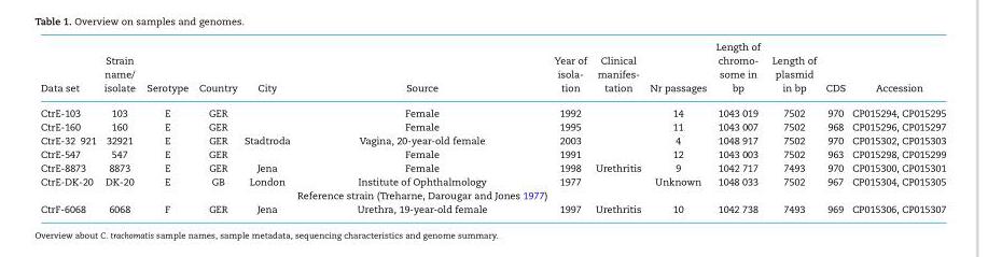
<table><thead><tr><td>Data set</td><td>Strain name/ isolate</td><td>Serotype</td><td>Country</td><td>City</td><td>Source</td><td>Year of isola- tion</td><td>Clinical manifes- tation</td><td>Nr passages</td><td>Length of chromo- some in bp</td><td>Length of plasmid in bp</td><td>CDS</td><td>Accession</td></tr></thead><tbody><tr><td>CtrE-103</td><td>103</td><td>E</td><td>GER</td><td></td><td>Female</td><td>1992</td><td></td><td>14</td><td>1043 019</td><td>7502</td><td>970</td><td>CP015294, CP015295</td></tr><tr><td>CtrE-160</td><td>160</td><td>E</td><td>GER</td><td></td><td>Female</td><td>1995</td><td></td><td>11</td><td>1043 007</td><td>7502</td><td>968</td><td>CP015296, CP015297</td></tr><tr><td>CtrE-32 921</td><td>32921</td><td>E</td><td>GER</td><td>Stadtroda</td><td>Vagina, 20-year-old female</td><td>2003</td><td></td><td>4</td><td>1048 917</td><td>7502</td><td>970</td><td>CP015302, CP015303</td></tr><tr><td>CtrE-547</td><td>547</td><td>E</td><td>GER</td><td></td><td>Female</td><td>1991</td><td></td><td>12</td><td>1043 003</td><td>7502</td><td>963</td><td>CP015298, CP015299</td></tr><tr><td>CtrE-8873</td><td>8873</td><td>E</td><td>GER</td><td>Jena</td><td>Female</td><td>1998</td><td>Urethritis</td><td>9</td><td>1042 717</td><td>7493</td><td>970</td><td>CP015300, CP015301</td></tr><tr><td rowspan="2">CtrE-DK-20</td><td>DK-20</td><td>E</td><td>GB</td><td>London</td><td>Institute of Ophthalmology</td><td>1977</td><td></td><td>Unknown</td><td>1048 033</td><td>7502</td><td>967</td><td>CP015304, CP015305</td></tr><tr><td></td><td></td><td></td><td></td><td>Reference strain (Treharne, Darougar and Jones 1977)</td><td></td><td></td><td></td><td></td><td></td><td></td><td></td></tr><tr><td>CtrF-6068</td><td>6068</td><td>F</td><td>GER</td><td>Jena</td><td>Urethra, 19-year-old female</td><td>1997</td><td>Urethritis</td><td>10</td><td>1042 738</td><td>7493</td><td>969</td><td>CP015306, CP015307</td></tr></tbody></table>